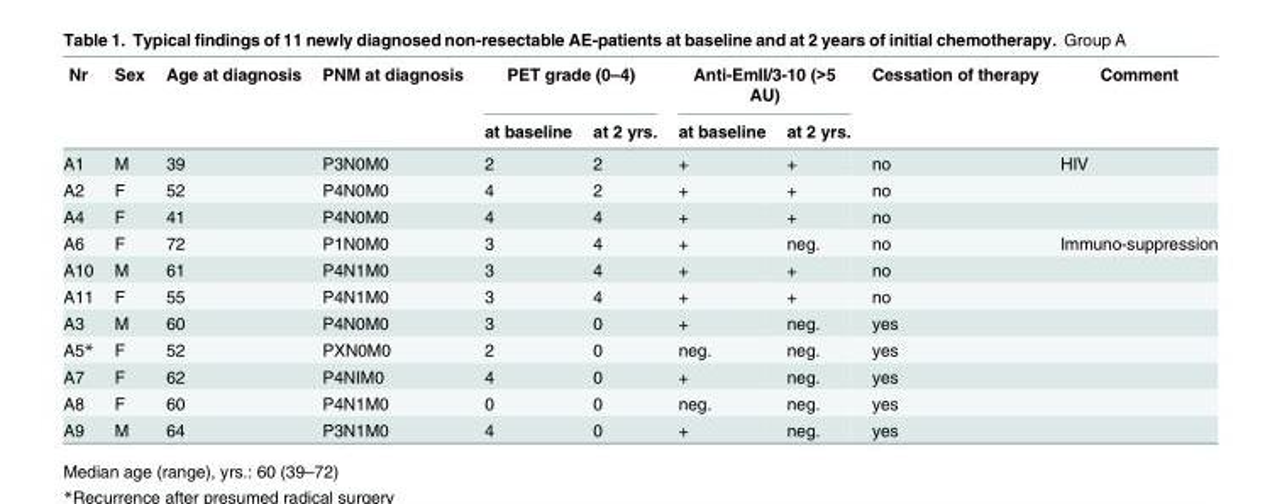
<table><thead><tr><td rowspan="2">Nr</td><td rowspan="2">Sex</td><td rowspan="2">Age at diagnosis</td><td rowspan="2">PNM at diagnosis</td><td colspan="2">PET grade (0–4)</td><td colspan="2">Anti-EmII/3-10 (&gt;5 AU)</td><td rowspan="2">Cessation of therapy</td><td rowspan="2">Comment</td></tr><tr><td>at baseline</td><td>at 2 yrs.</td><td>at baseline</td><td>at 2 yrs.</td></tr></thead><tbody><tr><td>A1</td><td>M</td><td>39</td><td>P3N0M0</td><td>2</td><td>2</td><td>+</td><td>+</td><td>no</td><td>HIV</td></tr><tr><td>A2</td><td>F</td><td>52</td><td>P4N0M0</td><td>4</td><td>2</td><td>+</td><td>+</td><td>no</td><td></td></tr><tr><td>A4</td><td>F</td><td>41</td><td>P4N0M0</td><td>4</td><td>4</td><td>+</td><td>+</td><td>no</td><td></td></tr><tr><td>A6</td><td>F</td><td>72</td><td>P1N0M0</td><td>3</td><td>4</td><td>+</td><td>neg.</td><td>no</td><td>Immuno-suppression</td></tr><tr><td>A10</td><td>M</td><td>61</td><td>P4N1M0</td><td>3</td><td>4</td><td>+</td><td>+</td><td>no</td><td></td></tr><tr><td>A11</td><td>F</td><td>55</td><td>P4N1M0</td><td>3</td><td>4</td><td>+</td><td>+</td><td>no</td><td></td></tr><tr><td>A3</td><td>M</td><td>60</td><td>P4N0M0</td><td>3</td><td>0</td><td>+</td><td>neg.</td><td>yes</td><td></td></tr><tr><td>A5*</td><td>F</td><td>52</td><td>PXN0M0</td><td>2</td><td>0</td><td>neg.</td><td>neg.</td><td>yes</td><td></td></tr><tr><td>A7</td><td>F</td><td>62</td><td>P4NIM0</td><td>4</td><td>0</td><td>+</td><td>neg.</td><td>yes</td><td></td></tr><tr><td>A8</td><td>F</td><td>60</td><td>P4N1M0</td><td>0</td><td>0</td><td>neg.</td><td>neg.</td><td>yes</td><td></td></tr><tr><td>A9</td><td>M</td><td>64</td><td>P3N1M0</td><td>4</td><td>0</td><td>+</td><td>neg.</td><td>yes</td><td></td></tr></tbody></table>